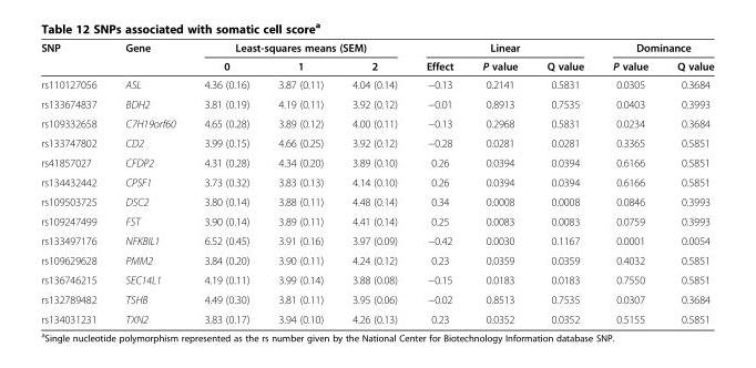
<table><thead><tr><td rowspan="2">SNP</td><td rowspan="2">Gene</td><td colspan="3">Least-squares means (SEM)</td><td colspan="3">Linear</td><td colspan="2">Dominance</td></tr><tr><td>0</td><td>1</td><td>2</td><td>Effect</td><td>P value</td><td>Q value</td><td>P value</td><td>Q value</td></tr></thead><tbody><tr><td>rs110127056</td><td>ASL</td><td>4.36 (0.16)</td><td>3.87 (0.11)</td><td>4.04 (0.14)</td><td>−0.13</td><td>0.2141</td><td>0.5831</td><td>0.0305</td><td>0.3684</td></tr><tr><td>rs133674837</td><td>BDH2</td><td>3.81 (0.19)</td><td>4.19 (0.11)</td><td>3.92 (0.12)</td><td>−0.01</td><td>0.8913</td><td>0.7535</td><td>0.0403</td><td>0.3993</td></tr><tr><td>rs109332658</td><td>C7H19orf60</td><td>4.65 (0.28)</td><td>3.89 (0.12)</td><td>4.00 (0.11)</td><td>−0.13</td><td>0.2968</td><td>0.5831</td><td>0.0234</td><td>0.3684</td></tr><tr><td>rs133747802</td><td>CD2</td><td>3.99 (0.15)</td><td>4.66 (0.25)</td><td>3.92 (0.12)</td><td>−0.28</td><td>0.0281</td><td>0.0281</td><td>0.3365</td><td>0.5851</td></tr><tr><td>rs41857027</td><td>CFDP2</td><td>4.31 (0.28)</td><td>4.34 (0.20)</td><td>3.89 (0.10)</td><td>0.26</td><td>0.0394</td><td>0.0394</td><td>0.6166</td><td>0.5851</td></tr><tr><td>rs134432442</td><td>CPSF1</td><td>3.73 (0.32)</td><td>3.83 (0.13)</td><td>4.14 (0.10)</td><td>0.26</td><td>0.0394</td><td>0.0394</td><td>0.6166</td><td>0.5851</td></tr><tr><td>rs109503725</td><td>DSC2</td><td>3.80 (0.14)</td><td>3.88 (0.11)</td><td>4.48 (0.14)</td><td>0.34</td><td>0.0008</td><td>0.0008</td><td>0.0846</td><td>0.3993</td></tr><tr><td>rs109247499</td><td>FST</td><td>3.90 (0.14)</td><td>3.89 (0.11)</td><td>4.41 (0.14)</td><td>0.25</td><td>0.0083</td><td>0.0083</td><td>0.0759</td><td>0.3993</td></tr><tr><td>rs133497176</td><td>NFKBIL1</td><td>6.52 (0.45)</td><td>3.91 (0.16)</td><td>3.97 (0.09)</td><td>−0.42</td><td>0.0030</td><td>0.1167</td><td>0.0001</td><td>0.0054</td></tr><tr><td>rs109629628</td><td>PMM2</td><td>3.84 (0.20)</td><td>3.90 (0.11)</td><td>4.24 (0.12)</td><td>0.23</td><td>0.0359</td><td>0.0359</td><td>0.4032</td><td>0.5851</td></tr><tr><td>rs136746215</td><td>SEC14L1</td><td>4.19 (0.11)</td><td>3.99 (0.14)</td><td>3.88 (0.08)</td><td>−0.15</td><td>0.0183</td><td>0.0183</td><td>0.7550</td><td>0.5851</td></tr><tr><td>rs132789482</td><td>TSHB</td><td>4.49 (0.30)</td><td>3.81 (0.11)</td><td>3.95 (0.06)</td><td>−0.02</td><td>0.8513</td><td>0.7535</td><td>0.0307</td><td>0.3684</td></tr><tr><td>rs134031231</td><td>TXN2</td><td>3.83 (0.17)</td><td>3.94 (0.10)</td><td>4.26 (0.13)</td><td>0.23</td><td>0.0352</td><td>0.0352</td><td>0.5155</td><td>0.5851</td></tr></tbody></table>